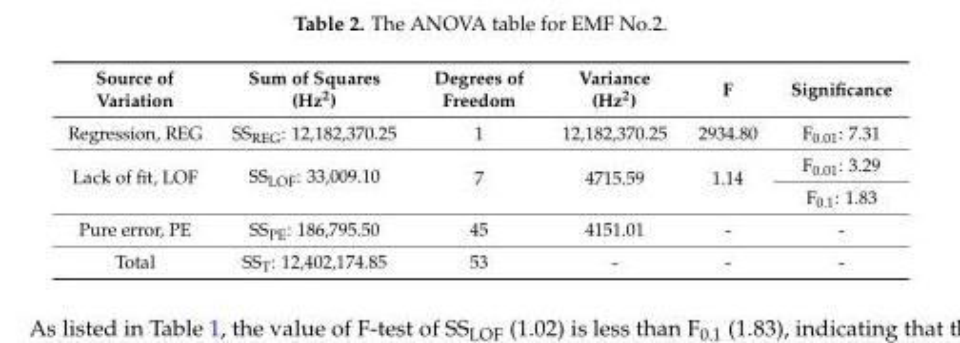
<table><thead><tr><td>Source of Variation</td><td>Sum of Squares (Hz<sup>2</sup>)</td><td>Degrees of Freedom</td><td>Variance (Hz<sup>2</sup>)</td><td>F</td><td>Significance</td></tr></thead><tbody><tr><td>Regression, REG</td><td>SS<sub>REG</sub>: 12,182,370.25</td><td>1</td><td>12,182,370.25</td><td>2934.80</td><td>F<sub>0.01</sub>: 7.31</td></tr><tr><td rowspan="2">Lack of fit, LOF</td><td rowspan="2">SS<sub>LOF</sub>: 33,009.10</td><td rowspan="2">7</td><td rowspan="2">4715.59</td><td rowspan="2">1.14</td><td>F<sub>0.01</sub>: 3.29</td></tr><tr><td>F<sub>0.1</sub>: 1.83</td></tr><tr><td>Pure error, PE</td><td>SS<sub>PE</sub>: 186,795.50</td><td>45</td><td>4151.01</td><td>-</td><td>-</td></tr><tr><td>Total</td><td>SS<sub>T</sub>: 12,402,174.85</td><td>53</td><td>-</td><td>-</td><td>-</td></tr></tbody></table>